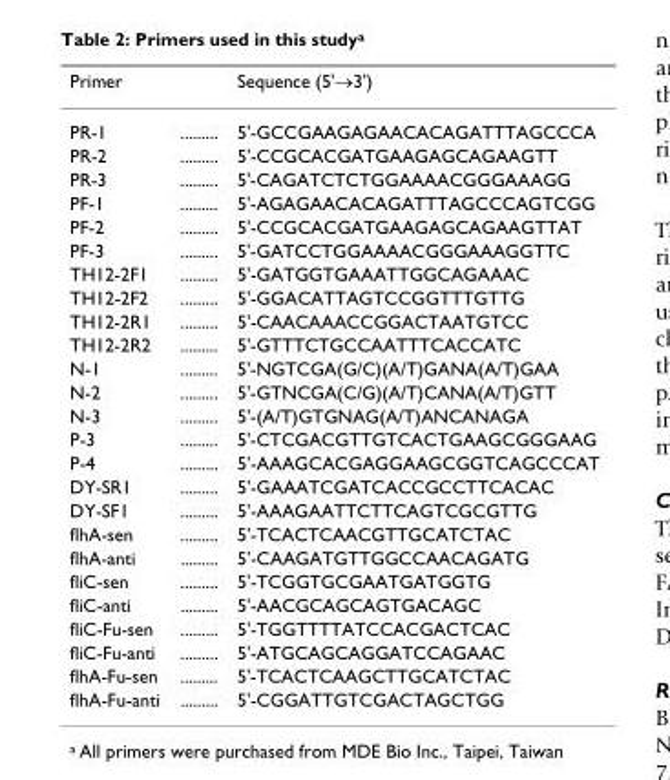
<table><thead><tr><td>Primer</td><td></td><td>Sequence (5&#x27;→3&#x27;)</td></tr></thead><tbody><tr><td>PR-1</td><td>.........</td><td>5&#x27;-GCCGAAGAGAACACAGATTTAGCCCA</td></tr><tr><td>PR-2</td><td>.........</td><td>5&#x27;-CCGCACGATGAAGAGCAGAAGTT</td></tr><tr><td>PR-3</td><td>.........</td><td>5&#x27;-CAGATCTCTGGAAAACGGGAAAGG</td></tr><tr><td>PF-1</td><td>.........</td><td>5&#x27;-AGAGAACACAGATTTAGCCCAGTCGG</td></tr><tr><td>PF-2</td><td>.........</td><td>5&#x27;-CCGCACGATGAAGAGCAGAAGTTAT</td></tr><tr><td>PF-3</td><td>.........</td><td>5&#x27;-GATCCTGGAAAACGGGAAAGGTTC</td></tr><tr><td>TH12-2F1</td><td>.........</td><td>5&#x27;-GATGGTGAAATTGGCAGAAAC</td></tr><tr><td>TH12-2F2</td><td>.........</td><td>5&#x27;-GGACATTAGTCCGGTTTGTTG</td></tr><tr><td>TH12-2R1</td><td>.........</td><td>5&#x27;-CAACAAACCGGACTAATGTCC</td></tr><tr><td>TH12-2R2</td><td>.........</td><td>5&#x27;-GTTTCTGCCAATTTCACCATC</td></tr><tr><td>N-1</td><td>.........</td><td>5&#x27;-NGTCGA(G/C)(A/T)GANA(A/T)GAA</td></tr><tr><td>N-2</td><td>.........</td><td>5&#x27;-GTNCGA(C/G)(A/T)CANA(A/T)GTT</td></tr><tr><td>N-3</td><td>.........</td><td>5&#x27;-(A/T)GTGNAG(A/T)ANCANAGA</td></tr><tr><td>P-3</td><td>.........</td><td>5&#x27;-CTCGACGTTGTCACTGAAGCGGGAAG</td></tr><tr><td>P-4</td><td>.........</td><td>5&#x27;-AAAGCACGAGGAAGCGGTCAGCCCAT</td></tr><tr><td>DY-SR1</td><td>.........</td><td>5&#x27;-GAAATCGATCACCGCCTTCACAC</td></tr><tr><td>DY-SF1</td><td>.........</td><td>5&#x27;-AAAGAATTCTTCAGTCGCGTTG</td></tr><tr><td>flhA-sen</td><td>.........</td><td>5&#x27;-TCACTCAACGTTGCATCTAC</td></tr><tr><td>flhA-anti</td><td>.........</td><td>5&#x27;-CAAGATGTTGGCCAACAGATG</td></tr><tr><td>fliC-sen</td><td>.........</td><td>5&#x27;-TCGGTGCGAATGATGGTG</td></tr><tr><td>fliC-anti</td><td>.........</td><td>5&#x27;-AACGCAGCAGTGACAGC</td></tr><tr><td>fliC-Fu-sen</td><td>.........</td><td>5&#x27;-TGGTTTTATCCACGACTCAC</td></tr><tr><td>fliC-Fu-anti</td><td>.........</td><td>5&#x27;-ATGCAGCAGGATCCAGAAC</td></tr><tr><td>flhA-Fu-sen</td><td>.........</td><td>5&#x27;-TCACTCAAGCTTGCATCTAC</td></tr><tr><td>flhA-Fu-anti</td><td>.........</td><td>5&#x27;-CGGATTGTCGACTAGCTGG</td></tr></tbody></table>